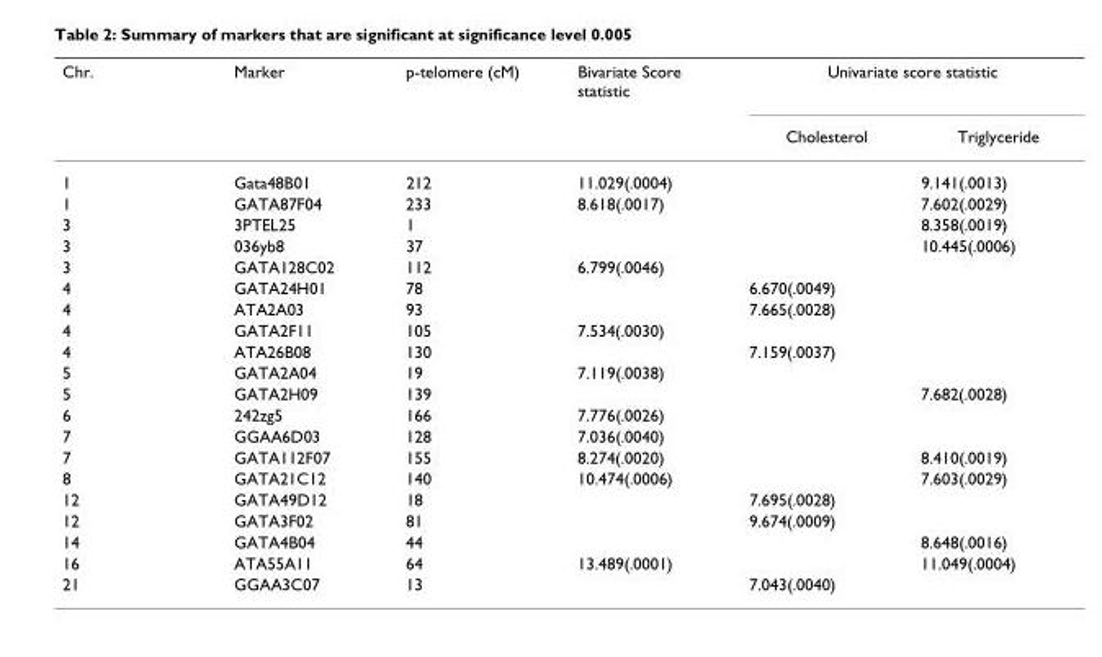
<table><thead><tr><td rowspan="2">Chr.</td><td rowspan="2">Marker</td><td rowspan="2">p-telomere (cM)</td><td rowspan="2">Bivariate Score statistic</td><td colspan="2">Univariate score statistic</td></tr><tr><td>Cholesterol</td><td>Triglyceride</td></tr></thead><tbody><tr><td>1</td><td>Gata48B01</td><td>212</td><td>11.029(.0004)</td><td></td><td>9.141(.0013)</td></tr><tr><td>1</td><td>GATA87F04</td><td>233</td><td>8.618(.0017)</td><td></td><td>7.602(.0029)</td></tr><tr><td>3</td><td>3PTEL25</td><td>1</td><td></td><td></td><td>8.358(.0019)</td></tr><tr><td>3</td><td>036yb8</td><td>37</td><td></td><td></td><td>10.445(.0006)</td></tr><tr><td>3</td><td>GATA128C02</td><td>112</td><td>6.799(.0046)</td><td></td><td></td></tr><tr><td>4</td><td>GATA24H01</td><td>78</td><td></td><td>6.670(.0049)</td><td></td></tr><tr><td>4</td><td>ATA2A03</td><td>93</td><td></td><td>7.665(.0028)</td><td></td></tr><tr><td>4</td><td>GATA2F11</td><td>105</td><td>7.534(.0030)</td><td></td><td></td></tr><tr><td>4</td><td>ATA26B08</td><td>130</td><td></td><td>7.159(.0037)</td><td></td></tr><tr><td>5</td><td>GATA2A04</td><td>19</td><td>7.119(.0038)</td><td></td><td></td></tr><tr><td>5</td><td>GATA2H09</td><td>139</td><td></td><td></td><td>7.682(.0028)</td></tr><tr><td>6</td><td>242zg5</td><td>166</td><td>7.776(.0026)</td><td></td><td></td></tr><tr><td>7</td><td>GGAA6D03</td><td>128</td><td>7.036(.0040)</td><td></td><td></td></tr><tr><td>7</td><td>GATA112F07</td><td>155</td><td>8.274(.0020)</td><td></td><td>8.410(.0019)</td></tr><tr><td>8</td><td>GATA21C12</td><td>140</td><td>10.474(.0006)</td><td></td><td>7.603(.0029)</td></tr><tr><td>12</td><td>GATA49D12</td><td>18</td><td></td><td>7.695(.0028)</td><td></td></tr><tr><td>12</td><td>GATA3F02</td><td>81</td><td></td><td>9.674(.0009)</td><td></td></tr><tr><td>14</td><td>GATA4B04</td><td>44</td><td></td><td></td><td>8.648(.0016)</td></tr><tr><td>16</td><td>ATA55A11</td><td>64</td><td>13.489(.0001)</td><td></td><td>11.049(.0004)</td></tr><tr><td>21</td><td>GGAA3C07</td><td>13</td><td></td><td>7.043(.0040)</td><td></td></tr></tbody></table>